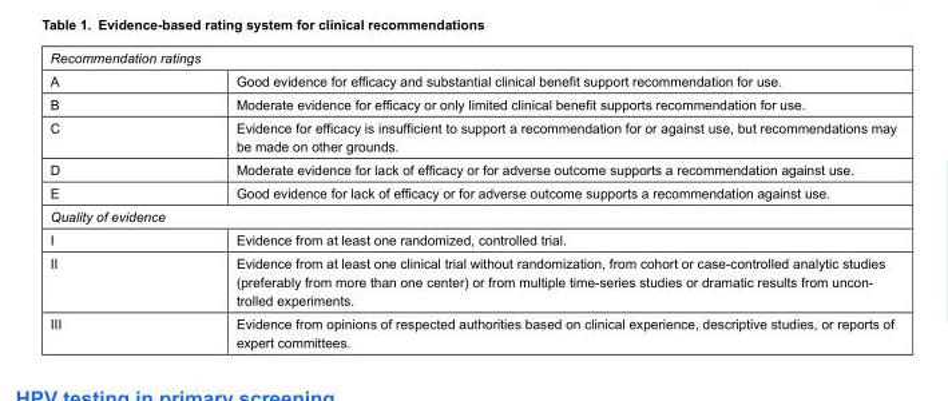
<table><tbody><tr><td colspan="2">Recommendation ratings</td></tr><tr><td>A</td><td>Good evidence for efficacy and substantial clinical benefit support recommendation for use.</td></tr><tr><td>B</td><td>Moderate evidence for efficacy or only limited clinical benefit supports recommendation for use.</td></tr><tr><td>C</td><td>Evidence for efficacy is insufficient to support a recommendation for or against use, but recommendations may be made on other grounds.</td></tr><tr><td>D</td><td>Moderate evidence for lack of efficacy or for adverse outcome supports a recommendation against use.</td></tr><tr><td>E</td><td>Good evidence for lack of efficacy or for adverse outcome supports a recommendation against use.</td></tr><tr><td colspan="2">Quality of evidence</td></tr><tr><td>I</td><td>Evidence from at least one randomized, controlled trial.</td></tr><tr><td>II</td><td>Evidence from at least one clinical trial without randomization, from cohort or case-controlled analytic studies (preferably from more than one center) or from multiple time-series studies or dramatic results from uncon- trolled experiments.</td></tr><tr><td>III</td><td>Evidence from opinions of respected authorities based on clinical experience, descriptive studies, or reports of expert committees.</td></tr></tbody></table>